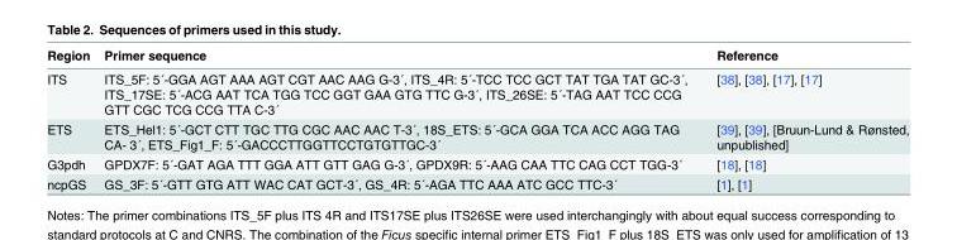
<table><thead><tr><td>Region</td><td>Primer sequence</td><td>Reference</td></tr></thead><tbody><tr><td>ITS</td><td>ITS_5F: 5´-GGA AGT AAA AGT CGT AAC AAG G-3´, ITS_4R: 5´-TCC TCC GCT TAT TGA TAT GC-3´, ITS_17SE: 5´-ACG AAT TCA TGG TCC GGT GAA GTG TTC G-3´, ITS_26SE: 5´-TAG AAT TCC CCG GTT CGC TCG CCG TTA C-3´</td><td>[38], [38], [17], [17]</td></tr><tr><td>ETS</td><td>ETS_Hel1: 5´-GCT CTT TGC TTG CGC AAC AAC T-3´, 18S_ETS: 5´-GCA GGA TCA ACC AGG TAG CA- 3´, ETS_Fig1_F: 5´-GACCCTTGGTTCCTGTGTTGC-3´</td><td>[39], [39], [Bruun-Lund &amp; Rønsted, unpublished]</td></tr><tr><td>G3pdh</td><td>GPDX7F: 5´-GAT AGA TTT GGA ATT GTT GAG G-3´, GPDX9R: 5´-AAG CAA TTC CAG CCT TGG-3´</td><td>[18], [18]</td></tr><tr><td>ncpGS</td><td>GS_3F: 5´-GTT GTG ATT WAC CAT GCT-3´, GS_4R: 5´-AGA TTC AAA ATC GCC TTC-3´</td><td>[1], [1]</td></tr></tbody></table>